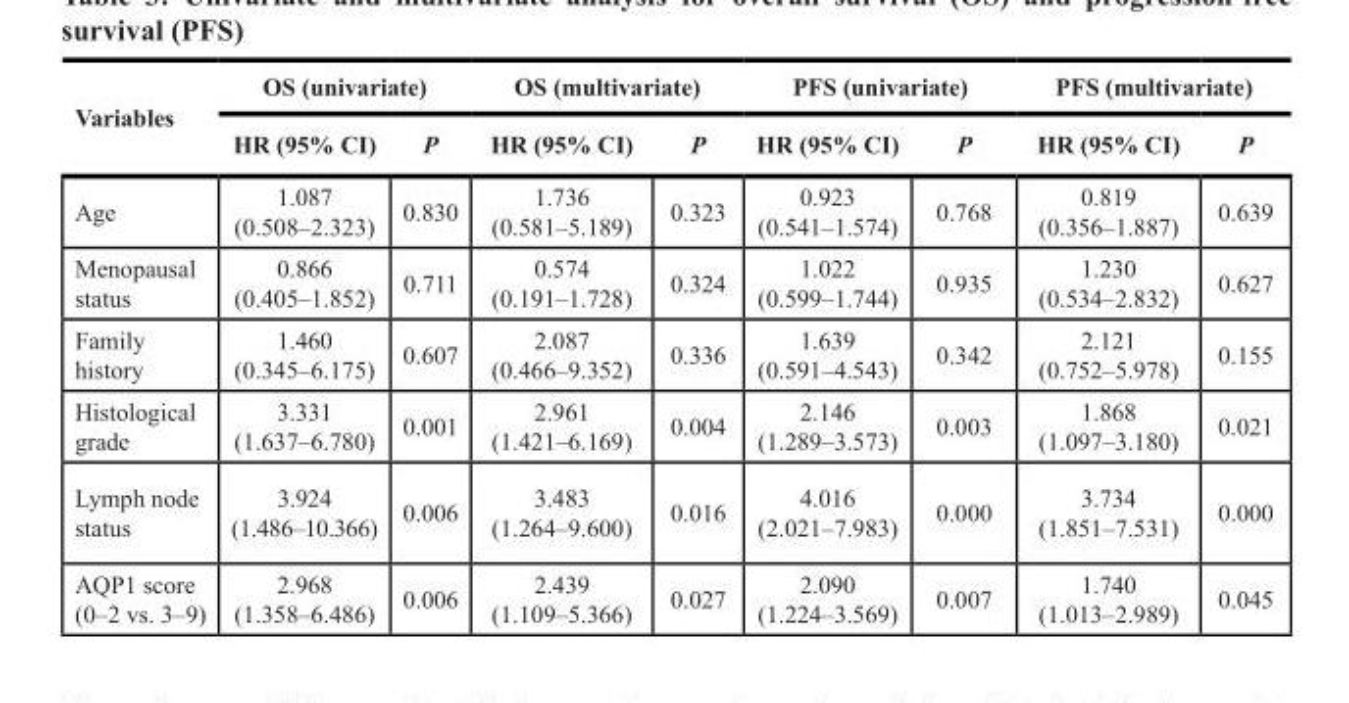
<table><thead><tr><td rowspan="2">Variables</td><td colspan="2">OS (univariate)</td><td colspan="2">OS (multivariate)</td><td colspan="2">PFS (univariate)</td><td colspan="2">PFS (multivariate)</td></tr><tr><td>HR (95% CI)</td><td>P</td><td>HR (95% CI)</td><td>P</td><td>HR (95% CI)</td><td>P</td><td>HR (95% CI)</td><td>P</td></tr></thead><tbody><tr><td>Age</td><td>1.087 (0.508–2.323)</td><td>0.830</td><td>1.736 (0.581–5.189)</td><td>0.323</td><td>0.923 (0.541–1.574)</td><td>0.768</td><td>0.819 (0.356–1.887)</td><td>0.639</td></tr><tr><td>Menopausal status</td><td>0.866 (0.405–1.852)</td><td>0.711</td><td>0.574 (0.191–1.728)</td><td>0.324</td><td>1.022 (0.599–1.744)</td><td>0.935</td><td>1.230 (0.534–2.832)</td><td>0.627</td></tr><tr><td>Family history</td><td>1.460 (0.345–6.175)</td><td>0.607</td><td>2.087 (0.466–9.352)</td><td>0.336</td><td>1.639 (0.591–4.543)</td><td>0.342</td><td>2.121 (0.752–5.978)</td><td>0.155</td></tr><tr><td>Histological grade</td><td>3.331 (1.637–6.780)</td><td>0.001</td><td>2.961 (1.421–6.169)</td><td>0.004</td><td>2.146 (1.289–3.573)</td><td>0.003</td><td>1.868 (1.097–3.180)</td><td>0.021</td></tr><tr><td>Lymph node status</td><td>3.924 (1.486–10.366)</td><td>0.006</td><td>3.483 (1.264–9.600)</td><td>0.016</td><td>4.016 (2.021–7.983)</td><td>0.000</td><td>3.734 (1.851–7.531)</td><td>0.000</td></tr><tr><td>AQP1 score (0–2 vs. 3–9)</td><td>2.968 (1.358–6.486)</td><td>0.006</td><td>2.439 (1.109–5.366)</td><td>0.027</td><td>2.090 (1.224–3.569)</td><td>0.007</td><td>1.740 (1.013–2.989)</td><td>0.045</td></tr></tbody></table>